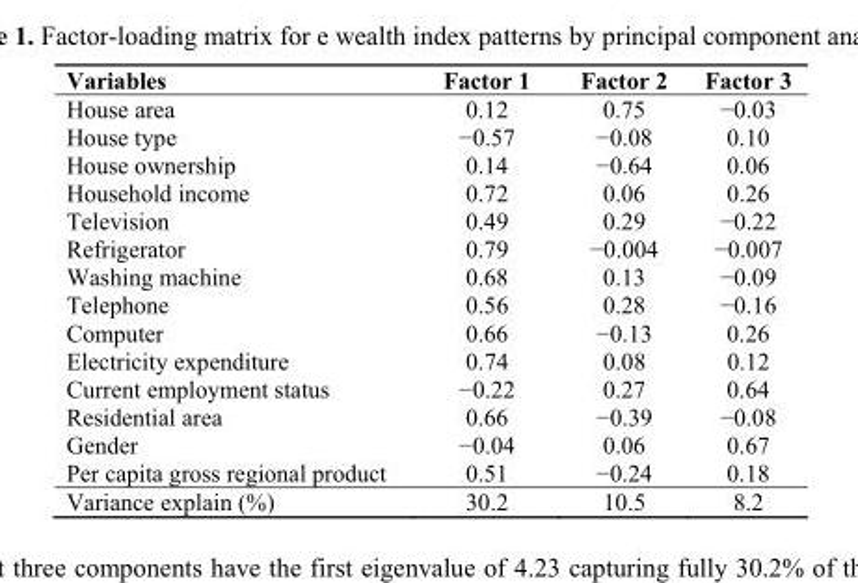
<table><thead><tr><td>Variables</td><td>Factor 1</td><td>Factor 2</td><td>Factor 3</td></tr></thead><tbody><tr><td>House area</td><td>0.12</td><td>0.75</td><td>−0.03</td></tr><tr><td>House type</td><td>−0.57</td><td>−0.08</td><td>0.10</td></tr><tr><td>House ownership</td><td>0.14</td><td>−0.64</td><td>0.06</td></tr><tr><td>Household income</td><td>0.72</td><td>0.06</td><td>0.26</td></tr><tr><td>Television</td><td>0.49</td><td>0.29</td><td>−0.22</td></tr><tr><td>Refrigerator</td><td>0.79</td><td>−0.004</td><td>−0.007</td></tr><tr><td>Washing machine</td><td>0.68</td><td>0.13</td><td>−0.09</td></tr><tr><td>Telephone</td><td>0.56</td><td>0.28</td><td>−0.16</td></tr><tr><td>Computer</td><td>0.66</td><td>−0.13</td><td>0.26</td></tr><tr><td>Electricity expenditure</td><td>0.74</td><td>0.08</td><td>0.12</td></tr><tr><td>Current employment status</td><td>−0.22</td><td>0.27</td><td>0.64</td></tr><tr><td>Residential area</td><td>0.66</td><td>−0.39</td><td>−0.08</td></tr><tr><td>Gender</td><td>−0.04</td><td>0.06</td><td>0.67</td></tr><tr><td>Per capita gross regional product</td><td>0.51</td><td>−0.24</td><td>0.18</td></tr><tr><td>Variance explain (%)</td><td>30.2</td><td>10.5</td><td>8.2</td></tr></tbody></table>